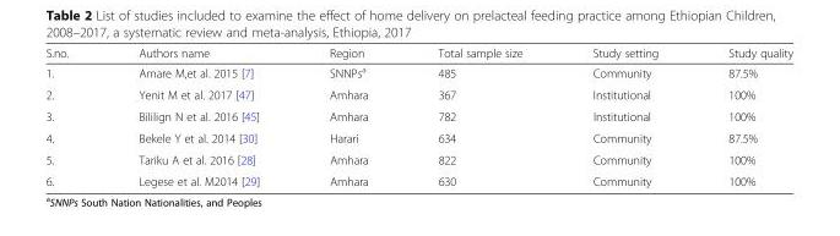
<table><thead><tr><td>S.no.</td><td>Authors name</td><td>Region</td><td>Total sample size</td><td>Study setting</td><td>Study quality</td></tr></thead><tbody><tr><td>1.</td><td>Amare M,et al. 2015 [7]</td><td>SNNPs<sup>a</sup></td><td>485</td><td>Community</td><td>87.5%</td></tr><tr><td>2.</td><td>Yenit M et al. 2017 [47]</td><td>Amhara</td><td>367</td><td>Institutional</td><td>100%</td></tr><tr><td>3.</td><td>Bililign N et al. 2016 [45]</td><td>Amhara</td><td>782</td><td>Institutional</td><td>100%</td></tr><tr><td>4.</td><td>Bekele Y et al. 2014 [30]</td><td>Harari</td><td>634</td><td>Community</td><td>87.5%</td></tr><tr><td>5.</td><td>Tariku A et al. 2016 [28]</td><td>Amhara</td><td>822</td><td>Community</td><td>100%</td></tr><tr><td>6.</td><td>Legese et al. M2014 [29]</td><td>Amhara</td><td>630</td><td>Community</td><td>100%</td></tr></tbody></table>